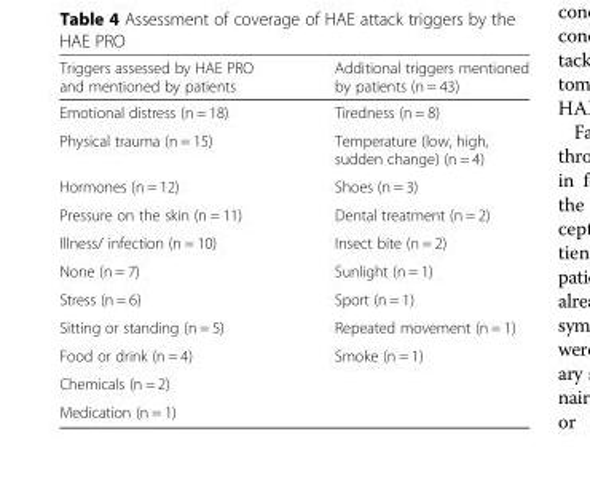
<table><thead><tr><td>Triggers assessed by HAE PRO and mentioned by patients</td><td>Additional triggers mentioned by patients (n = 43)</td></tr></thead><tbody><tr><td>Emotional distress (n = 18)</td><td>Tiredness (n = 8)</td></tr><tr><td>Physical trauma (n = 15)</td><td>Temperature (low, high, sudden change) (n = 4)</td></tr><tr><td>Hormones (n = 12)</td><td>Shoes (n = 3)</td></tr><tr><td>Pressure on the skin (n = 11)</td><td>Dental treatment (n = 2)</td></tr><tr><td>Illness/ infection (n = 10)</td><td>Insect bite (n = 2)</td></tr><tr><td>None (n = 7)</td><td>Sunlight (n = 1)</td></tr><tr><td>Stress (n = 6)</td><td>Sport (n = 1)</td></tr><tr><td>Sitting or standing (n = 5)</td><td>Repeated movement (n = 1)</td></tr><tr><td>Food or drink (n = 4)</td><td>Smoke (n = 1)</td></tr><tr><td colspan="2">Chemicals (n = 2)</td></tr><tr><td>Medication (n = 1)</td><td></td></tr></tbody></table>